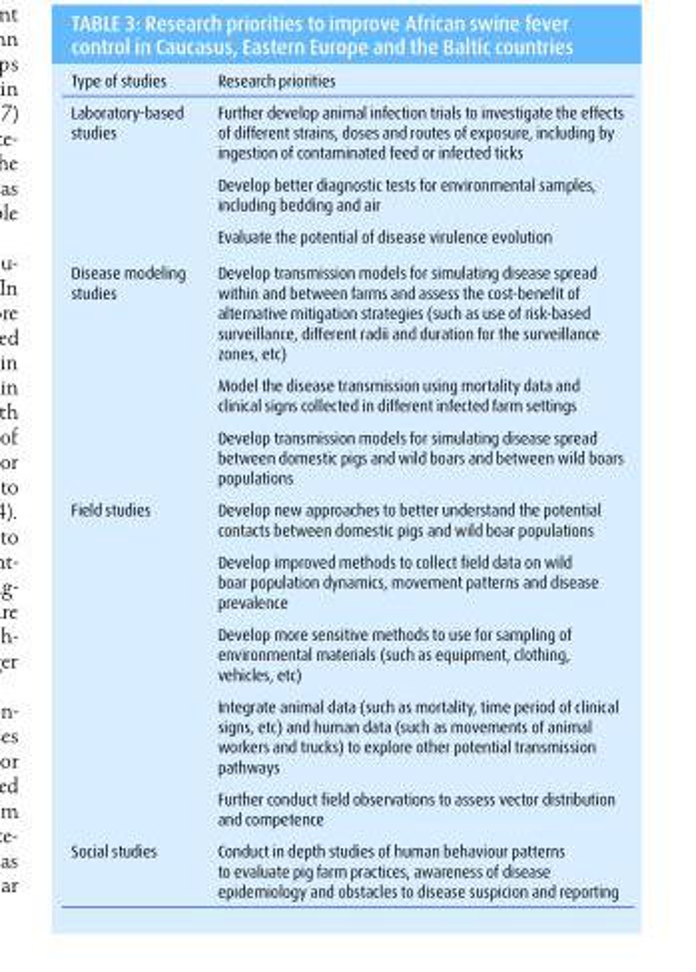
<table><thead><tr><td>Type of studies</td><td>Research priorities</td></tr></thead><tbody><tr><td rowspan="3">Laboratory-based studies</td><td>Further develop animal infection trials to investigate the effects of different strains, doses and routes of exposure, including by ingestion of contaminated feed or infected ticks</td></tr><tr><td>Develop better diagnostic tests for environmental samples, including bedding and air</td></tr><tr><td>Evaluate the potential of disease virulence evolution</td></tr><tr><td rowspan="3">Disease modeling studies</td><td>Develop transmission models for simulating disease spread within and between farms and assess the cost-benefit of alternative mitigation strategies (such as use of risk-based surveillance, different radii and duration for the surveillance zones, etc)</td></tr><tr><td>Model the disease transmission using mortality data and clinical signs collected in different infected farm settings</td></tr><tr><td>Develop transmission models for simulating disease spread between domestic pigs and wild boars and between wild boars populations</td></tr><tr><td rowspan="5">Field studies</td><td>Develop new approaches to better understand the potential contacts between domestic pigs and wild boar populations</td></tr><tr><td>Develop improved methods to collect field data on wild boar population dynamics, movement patterns and disease prevalence</td></tr><tr><td>Develop more sensitive methods to use for sampling of environmental materials (such as equipment, clothing, vehicles, etc)</td></tr><tr><td>Integrate animal data (such as mortality, time period of clinical signs, etc) and human data (such as movements of animal workers and trucks) to explore other potential transmission pathways</td></tr><tr><td>Further conduct field observations to assess vector distribution and competence</td></tr><tr><td>Social studies</td><td>Conduct in depth studies of human behaviour patterns to evaluate pig farm practices, awareness of disease epidemiology and obstacles to disease suspicion and reporting</td></tr></tbody></table>